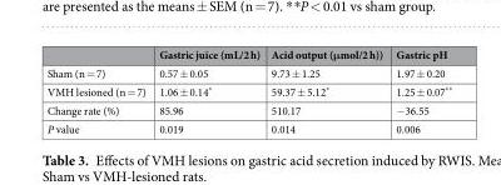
<table><thead><tr><td></td><td>Gastric juice (mL/2 h)</td><td>Acid output (μmol/2 h))</td><td>Gastric pH</td></tr></thead><tbody><tr><td>Sham (n = 7)</td><td>0.57 ± 0.05</td><td>9.73 ± 1.25</td><td>1.97 ± 0.20</td></tr><tr><td>VMH lesioned (n = 7)</td><td>1.06 ± 0.14*</td><td>59.37 ± 5.12*</td><td>1.25 ± 0.07**</td></tr><tr><td>Change rate (%)</td><td>85.96</td><td>510.17</td><td>−36.55</td></tr><tr><td>P value</td><td>0.019</td><td>0.014</td><td>0.006</td></tr></tbody></table>